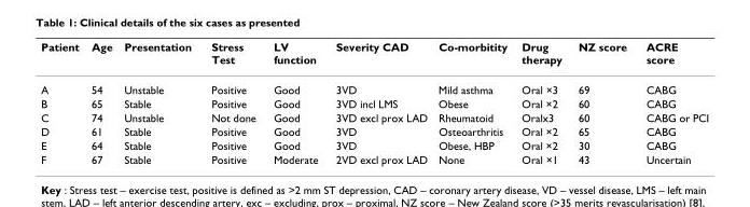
<table><thead><tr><td>Patient</td><td>Age</td><td>Presentation</td><td>Stress Test</td><td>LV function</td><td>Severity CAD</td><td>Co-morbitity</td><td>Drug therapy</td><td>NZ score</td><td>ACRE score</td></tr></thead><tbody><tr><td>A</td><td>54</td><td>Unstable</td><td>Positive</td><td>Good</td><td>3VD</td><td>Mild asthma</td><td>Oral ×3</td><td>69</td><td>CABG</td></tr><tr><td>B</td><td>65</td><td>Stable</td><td>Positive</td><td>Good</td><td>3VD incl LMS</td><td>Obese</td><td>Oral ×2</td><td>60</td><td>CABG</td></tr><tr><td>C</td><td>74</td><td>Unstable</td><td>Not done</td><td>Good</td><td>3VD excl prox LAD</td><td>Rheumatoid</td><td>Oralx3</td><td>60</td><td>CABG or PCI</td></tr><tr><td>D</td><td>61</td><td>Stable</td><td>Positive</td><td>Good</td><td>3VD</td><td>Osteoarthritis</td><td>Oral ×2</td><td>65</td><td>CABG</td></tr><tr><td>E</td><td>64</td><td>Stable</td><td>Positive</td><td>Good</td><td>3VD</td><td>Obese, HBP</td><td>Oral ×2</td><td>30</td><td>CABG</td></tr><tr><td>F</td><td>67</td><td>Stable</td><td>Positive</td><td>Moderate</td><td>2VD excl prox LAD</td><td>None</td><td>Oral ×1</td><td>43</td><td>Uncertain</td></tr></tbody></table>